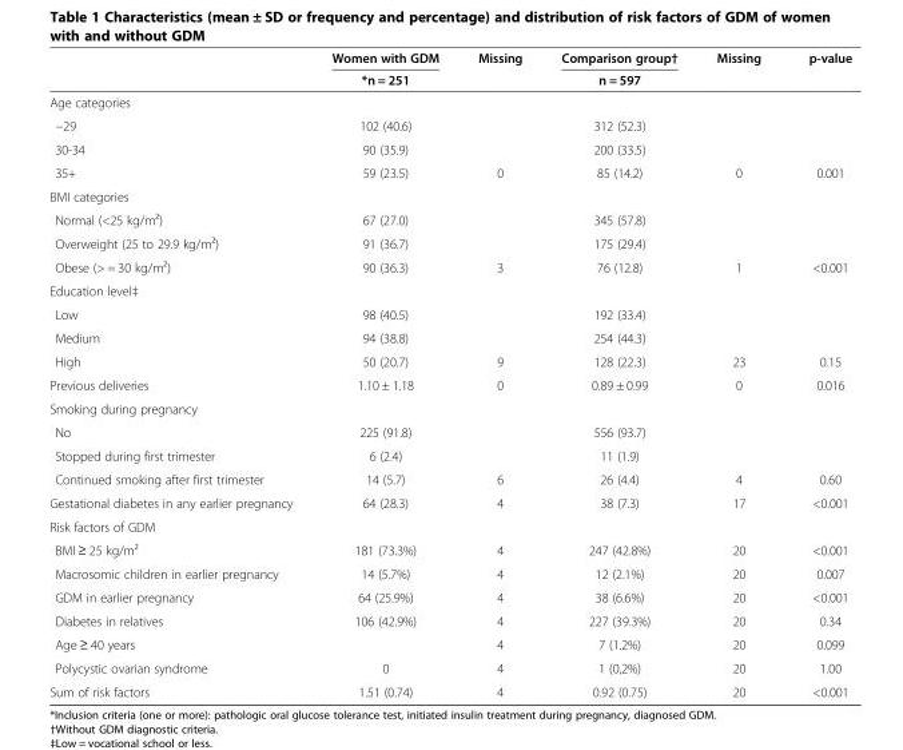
<table><thead><tr><td rowspan="2"></td><td rowspan="2">Women with GDM *n = 251</td><td rowspan="2">Missing</td><td rowspan="2">Comparison group† n = 597</td><td rowspan="2">Missing</td><td rowspan="2">p-value</td></tr><tr></tr></thead><tbody><tr><td colspan="6">Age categories</td></tr><tr><td>−29</td><td>102 (40.6)</td><td></td><td>312 (52.3)</td><td></td><td></td></tr><tr><td>30-34</td><td>90 (35.9)</td><td></td><td>200 (33.5)</td><td></td><td></td></tr><tr><td>35+</td><td>59 (23.5)</td><td>0</td><td>85 (14.2)</td><td>0</td><td>0.001</td></tr><tr><td colspan="6">BMI categories</td></tr><tr><td>Normal (&lt;25 kg/m²)</td><td>67 (27.0)</td><td></td><td>345 (57.8)</td><td></td><td></td></tr><tr><td>Overweight (25 to 29.9 kg/m²)</td><td>91 (36.7)</td><td></td><td>175 (29.4)</td><td></td><td></td></tr><tr><td>Obese (&gt; = 30 kg/m²)</td><td>90 (36.3)</td><td>3</td><td>76 (12.8)</td><td>1</td><td>&lt;0.001</td></tr><tr><td colspan="6">Education level‡</td></tr><tr><td>Low</td><td>98 (40.5)</td><td></td><td>192 (33.4)</td><td></td><td></td></tr><tr><td>Medium</td><td>94 (38.8)</td><td></td><td>254 (44.3)</td><td></td><td></td></tr><tr><td>High</td><td>50 (20.7)</td><td>9</td><td>128 (22.3)</td><td>23</td><td>0.15</td></tr><tr><td>Previous deliveries</td><td>1.10 ± 1.18</td><td>0</td><td>0.89 ± 0.99</td><td>0</td><td>0.016</td></tr><tr><td colspan="6">Smoking during pregnancy</td></tr><tr><td>No</td><td>225 (91.8)</td><td></td><td>556 (93.7)</td><td></td><td></td></tr><tr><td>Stopped during first trimester</td><td>6 (2.4)</td><td></td><td>11 (1.9)</td><td></td><td></td></tr><tr><td>Continued smoking after first trimester</td><td>14 (5.7)</td><td>6</td><td>26 (4.4)</td><td>4</td><td>0.60</td></tr><tr><td>Gestational diabetes in any earlier pregnancy</td><td>64 (28.3)</td><td>4</td><td>38 (7.3)</td><td>17</td><td>&lt;0.001</td></tr><tr><td colspan="6">Risk factors of GDM</td></tr><tr><td>BMI ≥ 25 kg/m²</td><td>181 (73.3%)</td><td>4</td><td>247 (42.8%)</td><td>20</td><td>&lt;0.001</td></tr><tr><td>Macrosomic children in earlier pregnancy</td><td>14 (5.7%)</td><td>4</td><td>12 (2.1%)</td><td>20</td><td>0.007</td></tr><tr><td>GDM in earlier pregnancy</td><td>64 (25.9%)</td><td>4</td><td>38 (6.6%)</td><td>20</td><td>&lt;0.001</td></tr><tr><td>Diabetes in relatives</td><td>106 (42.9%)</td><td>4</td><td>227 (39.3%)</td><td>20</td><td>0.34</td></tr><tr><td>Age ≥ 40 years</td><td></td><td>4</td><td>7 (1.2%)</td><td>20</td><td>0.099</td></tr><tr><td>Polycystic ovarian syndrome</td><td>0</td><td>4</td><td>1 (0,2%)</td><td>20</td><td>1.00</td></tr><tr><td>Sum of risk factors</td><td>1.51 (0.74)</td><td>4</td><td>0.92 (0.75)</td><td>20</td><td>&lt;0.001</td></tr></tbody></table>